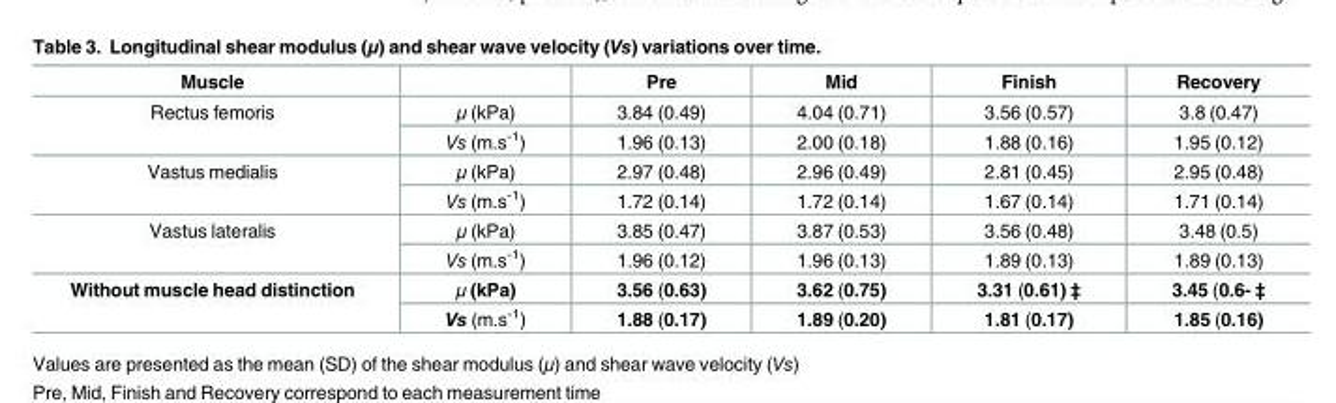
<table><thead><tr><td>Muscle</td><td></td><td>Pre</td><td>Mid</td><td>Finish</td><td>Recovery</td></tr></thead><tbody><tr><td rowspan="2">Rectus femoris</td><td>μ (kPa)</td><td>3.84 (0.49)</td><td>4.04 (0.71)</td><td>3.56 (0.57)</td><td>3.8 (0.47)</td></tr><tr><td>Vs (m.s<sup>-1</sup>)</td><td>1.96 (0.13)</td><td>2.00 (0.18)</td><td>1.88 (0.16)</td><td>1.95 (0.12)</td></tr><tr><td rowspan="2">Vastus medialis</td><td>μ (kPa)</td><td>2.97 (0.48)</td><td>2.96 (0.49)</td><td>2.81 (0.45)</td><td>2.95 (0.48)</td></tr><tr><td>Vs (m.s<sup>-1</sup>)</td><td>1.72 (0.14)</td><td>1.72 (0.14)</td><td>1.67 (0.14)</td><td>1.71 (0.14)</td></tr><tr><td rowspan="2">Vastus lateralis</td><td>μ (kPa)</td><td>3.85 (0.47)</td><td>3.87 (0.53)</td><td>3.56 (0.48)</td><td>3.48 (0.5)</td></tr><tr><td>Vs (m.s<sup>-1</sup>)</td><td>1.96 (0.12)</td><td>1.96 (0.13)</td><td>1.89 (0.13)</td><td>1.89 (0.13)</td></tr><tr><td rowspan="2">Without muscle head distinction</td><td>μ (kPa)</td><td>3.56 (0.63)</td><td>3.62 (0.75)</td><td>3.31 (0.61) ‡</td><td>3.45 (0.6- ‡</td></tr><tr><td>Vs (m.s<sup>-1</sup>)</td><td>1.88 (0.17)</td><td>1.89 (0.20)</td><td>1.81 (0.17)</td><td>1.85 (0.16)</td></tr></tbody></table>